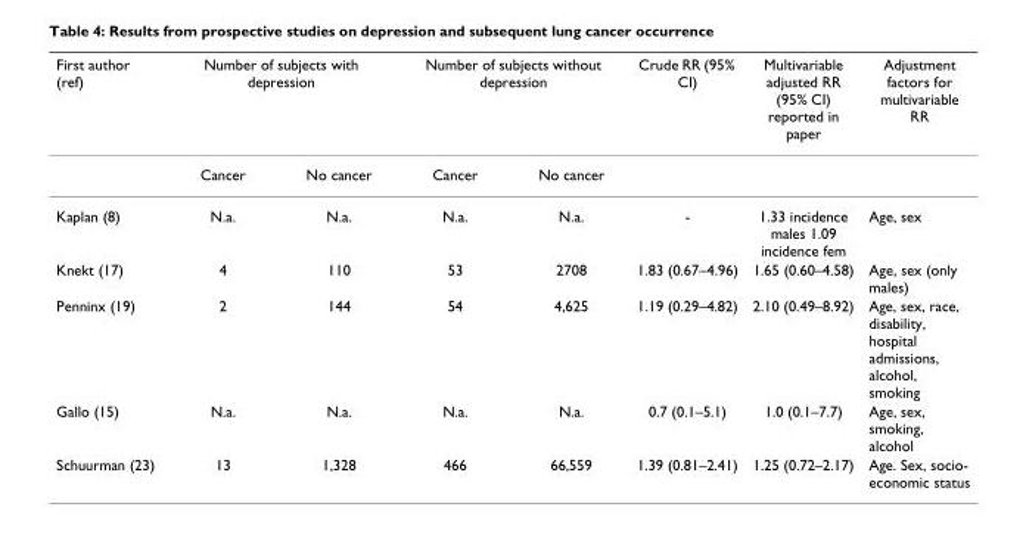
<table><thead><tr><td rowspan="2">First author (ref)</td><td colspan="2">Number of subjects with depression</td><td colspan="2">Number of subjects without depression</td><td rowspan="2">Crude RR (95% CI)</td><td rowspan="2">Multivariable adjusted RR (95% CI) reported in paper</td><td rowspan="2">Adjustment factors for multivariable RR</td></tr><tr><td>Cancer</td><td>No cancer</td><td>Cancer</td><td>No cancer</td></tr></thead><tbody><tr><td>Kaplan (8)</td><td>N.a.</td><td>N.a.</td><td>N.a.</td><td>N.a.</td><td>-</td><td>1.33 incidence males 1.09 incidence fem</td><td>Age, sex</td></tr><tr><td>Knekt (17)</td><td>4</td><td>110</td><td>53</td><td>2708</td><td>1.83 (0.67–4.96)</td><td>1.65 (0.60–4.58)</td><td>Age, sex (only males)</td></tr><tr><td>Penninx (19)</td><td>2</td><td>144</td><td>54</td><td>4,625</td><td>1.19 (0.29–4.82)</td><td>2.10 (0.49–8.92)</td><td>Age, sex, race, disability, hospital admissions, alcohol, smoking</td></tr><tr><td>Gallo (15)</td><td>N.a.</td><td>N.a.</td><td>N.a.</td><td>N.a.</td><td>0.7 (0.1–5.1)</td><td>1.0 (0.1–7.7)</td><td>Age, sex, smoking, alcohol</td></tr><tr><td>Schuurman (23)</td><td>13</td><td>1,328</td><td>466</td><td>66,559</td><td>1.39 (0.81–2.41)</td><td>1.25 (0.72–2.17)</td><td>Age. Sex, socio- economic status</td></tr></tbody></table>